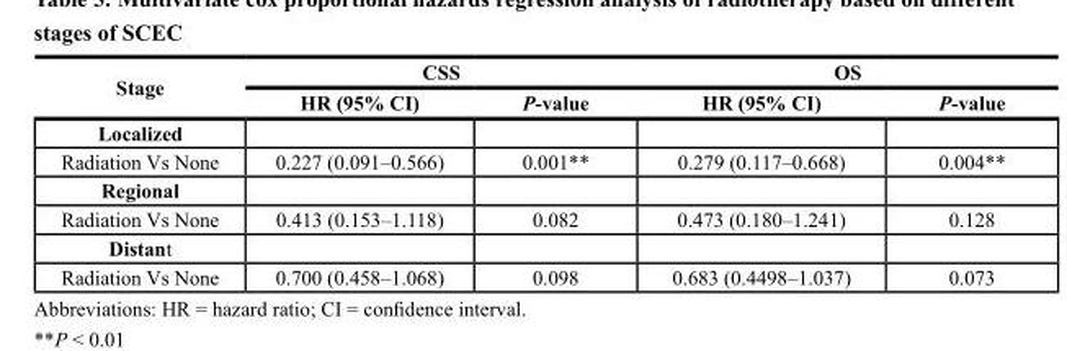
<table><thead><tr><td rowspan="2">Stage</td><td colspan="2">CSS</td><td colspan="2">OS</td></tr><tr><td>HR (95% CI)</td><td>P-value</td><td>HR (95% CI)</td><td>P-value</td></tr></thead><tbody><tr><td colspan="5">Localized</td></tr><tr><td>Radiation Vs None</td><td>0.227 (0.091–0.566)</td><td>0.001**</td><td>0.279 (0.117–0.668)</td><td>0.004**</td></tr><tr><td colspan="5">Regional</td></tr><tr><td>Radiation Vs None</td><td>0.413 (0.153–1.118)</td><td>0.082</td><td>0.473 (0.180–1.241)</td><td>0.128</td></tr><tr><td colspan="5">Distant</td></tr><tr><td>Radiation Vs None</td><td>0.700 (0.458–1.068)</td><td>0.098</td><td>0.683 (0.4498–1.037)</td><td>0.073</td></tr></tbody></table>